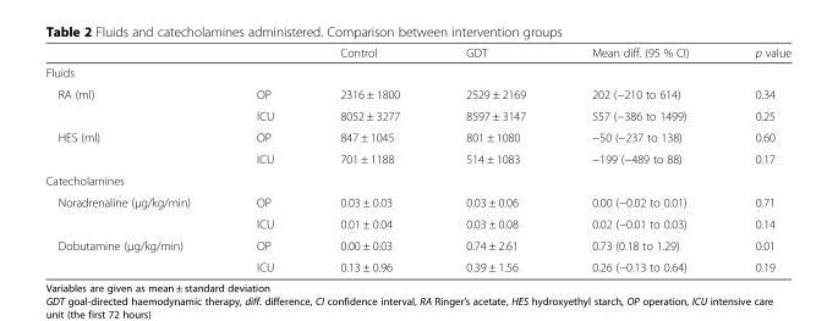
<table><thead><tr><td></td><td></td><td>Control</td><td>GDT</td><td>Mean diff. (95 % CI)</td><td>p value</td></tr></thead><tbody><tr><td colspan="6">Fluids</td></tr><tr><td rowspan="2">RA (ml)</td><td>OP</td><td>2316 ± 1800</td><td>2529 ± 2169</td><td>202 (−210 to 614)</td><td>0.34</td></tr><tr><td>ICU</td><td>8052 ± 3277</td><td>8597 ± 3147</td><td>557 (−386 to 1499)</td><td>0.25</td></tr><tr><td rowspan="2">HES (ml)</td><td>OP</td><td>847 ± 1045</td><td>801 ± 1080</td><td>−50 (−237 to 138)</td><td>0.60</td></tr><tr><td>ICU</td><td>701 ± 1188</td><td>514 ± 1083</td><td>−199 (−489 to 88)</td><td>0.17</td></tr><tr><td colspan="6">Catecholamines</td></tr><tr><td rowspan="2">Noradrenaline (μg/kg/min)</td><td>OP</td><td>0.03 ± 0.03</td><td>0.03 ± 0.06</td><td>0.00 (−0.02 to 0.01)</td><td>0.71</td></tr><tr><td>ICU</td><td>0.01 ± 0.04</td><td>0.03 ± 0.08</td><td>0.02 (−0.01 to 0.03)</td><td>0.14</td></tr><tr><td rowspan="2">Dobutamine (μg/kg/min)</td><td>OP</td><td>0.00 ± 0.03</td><td>0.74 ± 2.61</td><td>0.73 (0.18 to 1.29)</td><td>0.01</td></tr><tr><td>ICU</td><td>0.13 ± 0.96</td><td>0.39 ± 1.56</td><td>0.26 (−0.13 to 0.64)</td><td>0.19</td></tr></tbody></table>